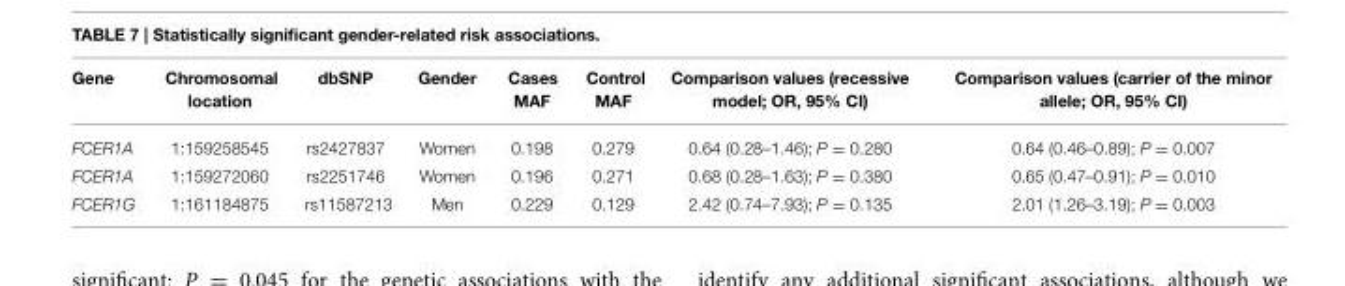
<table><thead><tr><td>Gene</td><td>Chromosomal location</td><td>dbSNP</td><td>Gender</td><td>Cases MAF</td><td>Control MAF</td><td>Comparison values (recessive model; OR, 95% CI)</td><td>Comparison values (carrier of the minor allele; OR, 95% CI)</td></tr></thead><tbody><tr><td>FCER1A</td><td>1:159258545</td><td>rs2427837</td><td>Women</td><td>0.198</td><td>0.279</td><td>0.64 (0.28–1.46); P = 0.280</td><td>0.64 (0.46–0.89); P = 0.007</td></tr><tr><td>FCER1A</td><td>1:159272060</td><td>rs2251746</td><td>Women</td><td>0.196</td><td>0.271</td><td>0.68 (0.28–1.63); P = 0.380</td><td>0.65 (0.47–0.91); P = 0.010</td></tr><tr><td>FCER1G</td><td>1:161184875</td><td>rs11587213</td><td>Men</td><td>0.229</td><td>0.129</td><td>2.42 (0.74–7.93); P = 0.135</td><td>2.01 (1.26–3.19); P = 0.003</td></tr></tbody></table>